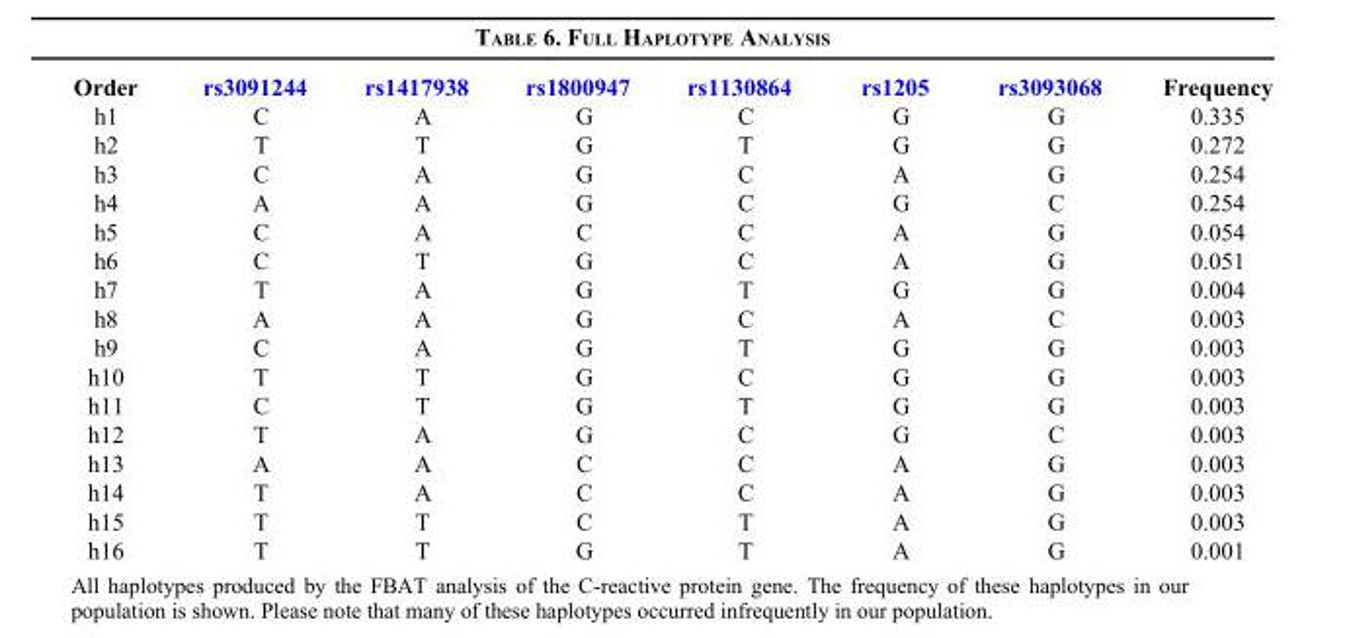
<table><thead><tr><td>Order</td><td>rs3091244</td><td>rs1417938</td><td>rs1800947</td><td>rs1130864</td><td>rs1205</td><td>rs3093068</td><td>Frequency</td></tr></thead><tbody><tr><td>h1</td><td>C</td><td>A</td><td>G</td><td>C</td><td>G</td><td>G</td><td>0.335</td></tr><tr><td>h2</td><td>T</td><td>T</td><td>G</td><td>T</td><td>G</td><td>G</td><td>0.272</td></tr><tr><td>h3</td><td>C</td><td>A</td><td>G</td><td>C</td><td>A</td><td>G</td><td>0.254</td></tr><tr><td>h4</td><td>A</td><td>A</td><td>G</td><td>C</td><td>G</td><td>C</td><td>0.254</td></tr><tr><td>h5</td><td>C</td><td>A</td><td>C</td><td>C</td><td>A</td><td>G</td><td>0.054</td></tr><tr><td>h6</td><td>C</td><td>T</td><td>G</td><td>C</td><td>A</td><td>G</td><td>0.051</td></tr><tr><td>h7</td><td>T</td><td>A</td><td>G</td><td>T</td><td>G</td><td>G</td><td>0.004</td></tr><tr><td>h8</td><td>A</td><td>A</td><td>G</td><td>C</td><td>A</td><td>C</td><td>0.003</td></tr><tr><td>h9</td><td>C</td><td>A</td><td>G</td><td>T</td><td>G</td><td>G</td><td>0.003</td></tr><tr><td>h10</td><td>T</td><td>T</td><td>G</td><td>C</td><td>G</td><td>G</td><td>0.003</td></tr><tr><td>h11</td><td>C</td><td>T</td><td>G</td><td>T</td><td>G</td><td>G</td><td>0.003</td></tr><tr><td>h12</td><td>T</td><td>A</td><td>G</td><td>C</td><td>G</td><td>C</td><td>0.003</td></tr><tr><td>h13</td><td>A</td><td>A</td><td>C</td><td>C</td><td>A</td><td>G</td><td>0.003</td></tr><tr><td>h14</td><td>T</td><td>A</td><td>C</td><td>C</td><td>A</td><td>G</td><td>0.003</td></tr><tr><td>h15</td><td>T</td><td>T</td><td>C</td><td>T</td><td>A</td><td>G</td><td>0.003</td></tr><tr><td>h16</td><td>T</td><td>T</td><td>G</td><td>T</td><td>A</td><td>G</td><td>0.001</td></tr></tbody></table>